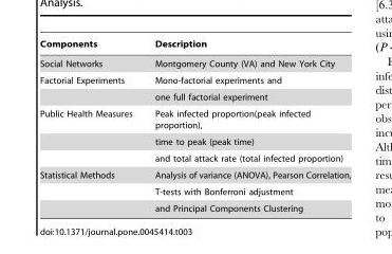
<table><thead><tr><td>Components</td><td>Description</td></tr></thead><tbody><tr><td>Social Networks</td><td>Montgomery County (VA) and New York City</td></tr><tr><td rowspan="2">Factorial Experiments</td><td>Mono-factorial experiments and</td></tr><tr><td>one full factorial experiment</td></tr><tr><td rowspan="3">Public Health Measures</td><td>Peak infected proportion(peak infected proportion),</td></tr><tr><td>time to peak (peak time)</td></tr><tr><td>and total attack rate (total infected proportion)</td></tr><tr><td rowspan="3">Statistical Methods</td><td>Analysis of variance (ANOVA), Pearson Correlation,</td></tr><tr><td>T-tests with Bonferroni adjustment</td></tr><tr><td>and Principal Components Clustering</td></tr></tbody></table>